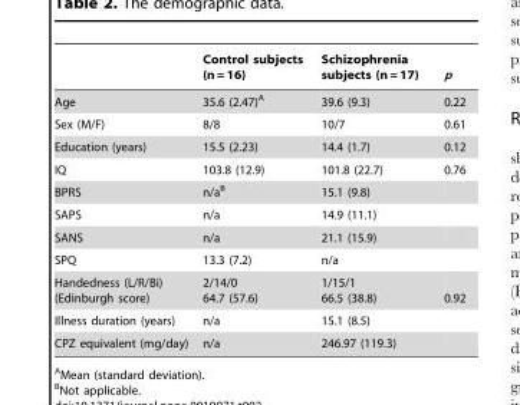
<table><thead><tr><td></td><td>Control subjects (n = 16)</td><td>Schizophrenia subjects (n = 17)</td><td>p</td></tr></thead><tbody><tr><td>Age</td><td>35.6 (2.47)<sup>A</sup></td><td>39.6 (9.3)</td><td>0.22</td></tr><tr><td>Sex (M/F)</td><td>8/8</td><td>10/7</td><td>0.61</td></tr><tr><td>Education (years)</td><td>15.5 (2.23)</td><td>14.4 (1.7)</td><td>0.12</td></tr><tr><td>IQ</td><td>103.8 (12.9)</td><td>101.8 (22.7)</td><td>0.76</td></tr><tr><td>BPRS</td><td>n/a<sup>B</sup></td><td>15.1 (9.8)</td><td></td></tr><tr><td>SAPS</td><td>n/a</td><td>14.9 (11.1)</td><td></td></tr><tr><td>SANS</td><td>n/a</td><td>21.1 (15.9)</td><td></td></tr><tr><td>SPQ</td><td>13.3 (7.2)</td><td>n/a</td><td></td></tr><tr><td>Handedness (L/R/Bi) (Edinburgh score)</td><td>2/14/0 64.7 (57.6)</td><td>1/15/1 66.5 (38.8)</td><td>0.92</td></tr><tr><td>Illness duration (years)</td><td>n/a</td><td>15.1 (8.5)</td><td></td></tr><tr><td>CPZ equivalent (mg/day)</td><td>n/a</td><td>246.97 (119.3)</td><td></td></tr></tbody></table>